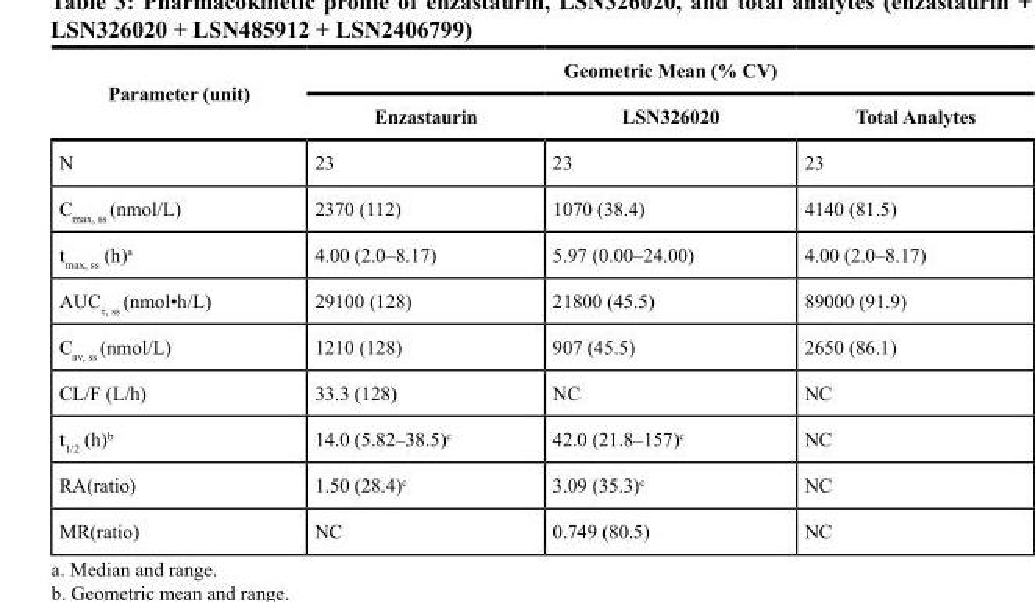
<table><thead><tr><td rowspan="2">Parameter (unit)</td><td colspan="3">Geometric Mean (% CV)</td></tr><tr><td>Enzastaurin</td><td>LSN326020</td><td>Total Analytes</td></tr></thead><tbody><tr><td>N</td><td>23</td><td>23</td><td>23</td></tr><tr><td>C<sub>max, ss</sub> (nmol/L)</td><td>2370 (112)</td><td>1070 (38.4)</td><td>4140 (81.5)</td></tr><tr><td>t<sub>max, ss</sub> (h)<sup>a</sup></td><td>4.00 (2.0–8.17)</td><td>5.97 (0.00–24.00)</td><td>4.00 (2.0–8.17)</td></tr><tr><td>AUCτ, ss (nmol•h/L)</td><td>29100 (128)</td><td>21800 (45.5)</td><td>89000 (91.9)</td></tr><tr><td>C<sub>av, ss</sub> (nmol/L)</td><td>1210 (128)</td><td>907 (45.5)</td><td>2650 (86.1)</td></tr><tr><td>CL/F (L/h)</td><td>33.3 (128)</td><td>NC</td><td>NC</td></tr><tr><td>t<sub>1/2</sub> (h)<sup>b</sup></td><td>14.0 (5.82–38.5)<sup>c</sup></td><td>42.0 (21.8–157)<sup>c</sup></td><td>NC</td></tr><tr><td>RA(ratio)</td><td>1.50 (28.4)<sup>c</sup></td><td>3.09 (35.3)<sup>c</sup></td><td>NC</td></tr><tr><td>MR(ratio)</td><td>NC</td><td>0.749 (80.5)</td><td>NC</td></tr></tbody></table>